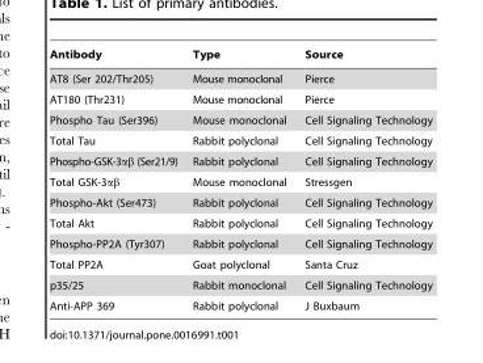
<table><thead><tr><td>Antibody</td><td>Type</td><td>Source</td></tr></thead><tbody><tr><td>AT8 (Ser 202/Thr205)</td><td>Mouse monoclonal</td><td>Pierce</td></tr><tr><td>AT180 (Thr231)</td><td>Mouse monoclonal</td><td>Pierce</td></tr><tr><td>Phospho Tau (Ser396)</td><td>Mouse monoclonal</td><td>Cell Signaling Technology</td></tr><tr><td>Total Tau</td><td>Rabbit polyclonal</td><td>Cell Signaling Technology</td></tr><tr><td>Phospho-GSK-3αβ (Ser21/9)</td><td>Rabbit polyclonal</td><td>Cell Signaling Technology</td></tr><tr><td>Total GSK-3αβ</td><td>Mouse monoclonal</td><td>Stressgen</td></tr><tr><td>Phospho-Akt (Ser473)</td><td>Rabbit polyclonal</td><td>Cell Signaling Technology</td></tr><tr><td>Total Akt</td><td>Rabbit polyclonal</td><td>Cell Signaling Technology</td></tr><tr><td>Phospho-PP2A (Tyr307)</td><td>Rabbit polyclonal</td><td>Cell Signaling Technology</td></tr><tr><td>Total PP2A</td><td>Goat polyclonal</td><td>Santa Cruz</td></tr><tr><td>p35/25</td><td>Rabbit monoclonal</td><td>Cell Signaling Technology</td></tr><tr><td>Anti-APP 369</td><td>Rabbit polyclonal</td><td>J Buxbaum</td></tr></tbody></table>